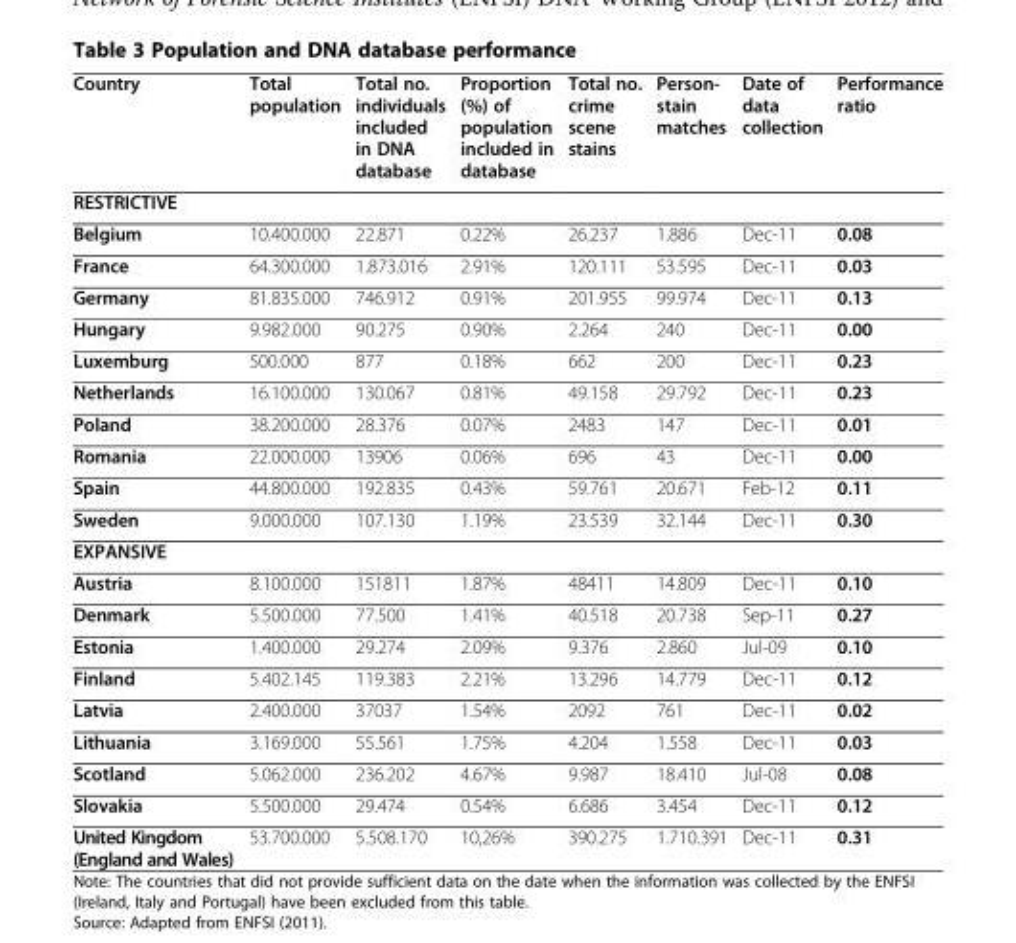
<table><thead><tr><td>Country</td><td>Total population</td><td>Total no. individuals included in DNA database</td><td>Proportion (%) of population included in database</td><td>Total no. crime scene stains</td><td>Person- stain matches</td><td>Date of data collection</td><td>Performance ratio</td></tr></thead><tbody><tr><td colspan="8">RESTRICTIVE</td></tr><tr><td>Belgium</td><td>10.400.000</td><td>22.871</td><td>0.22%</td><td>26.237</td><td>1.886</td><td>Dec-11</td><td>0.08</td></tr><tr><td>France</td><td>64.300.000</td><td>1.873.016</td><td>2.91%</td><td>120.111</td><td>53.595</td><td>Dec-11</td><td>0.03</td></tr><tr><td>Germany</td><td>81.835.000</td><td>746.912</td><td>0.91%</td><td>201.955</td><td>99.974</td><td>Dec-11</td><td>0.13</td></tr><tr><td>Hungary</td><td>9.982.000</td><td>90.275</td><td>0.90%</td><td>2.264</td><td>240</td><td>Dec-11</td><td>0.00</td></tr><tr><td>Luxemburg</td><td>500.000</td><td>877</td><td>0.18%</td><td>662</td><td>200</td><td>Dec-11</td><td>0.23</td></tr><tr><td>Netherlands</td><td>16.100.000</td><td>130.067</td><td>0.81%</td><td>49.158</td><td>29.792</td><td>Dec-11</td><td>0.23</td></tr><tr><td>Poland</td><td>38.200.000</td><td>28.376</td><td>0.07%</td><td>2483</td><td>147</td><td>Dec-11</td><td>0.01</td></tr><tr><td>Romania</td><td>22.000.000</td><td>13906</td><td>0.06%</td><td>696</td><td>43</td><td>Dec-11</td><td>0.00</td></tr><tr><td>Spain</td><td>44.800.000</td><td>192.835</td><td>0.43%</td><td>59.761</td><td>20.671</td><td>Feb-12</td><td>0.11</td></tr><tr><td>Sweden</td><td>9.000.000</td><td>107.130</td><td>1.19%</td><td>23.539</td><td>32.144</td><td>Dec-11</td><td>0.30</td></tr><tr><td colspan="8">EXPANSIVE</td></tr><tr><td>Austria</td><td>8.100.000</td><td>151811</td><td>1.87%</td><td>48411</td><td>14.809</td><td>Dec-11</td><td>0.10</td></tr><tr><td>Denmark</td><td>5.500.000</td><td>77.500</td><td>1.41%</td><td>40.518</td><td>20.738</td><td>Sep-11</td><td>0.27</td></tr><tr><td>Estonia</td><td>1.400.000</td><td>29.274</td><td>2.09%</td><td>9.376</td><td>2.860</td><td>Jul-09</td><td>0.10</td></tr><tr><td>Finland</td><td>5.402.145</td><td>119.383</td><td>2.21%</td><td>13.296</td><td>14.779</td><td>Dec-11</td><td>0.12</td></tr><tr><td>Latvia</td><td>2.400.000</td><td>37037</td><td>1.54%</td><td>2092</td><td>761</td><td>Dec-11</td><td>0.02</td></tr><tr><td>Lithuania</td><td>3.169.000</td><td>55.561</td><td>1.75%</td><td>4.204</td><td>1.558</td><td>Dec-11</td><td>0.03</td></tr><tr><td>Scotland</td><td>5.062.000</td><td>236.202</td><td>4.67%</td><td>9.987</td><td>18.410</td><td>Jul-08</td><td>0.08</td></tr><tr><td>Slovakia</td><td>5.500.000</td><td>29.474</td><td>0.54%</td><td>6.686</td><td>3.454</td><td>Dec-11</td><td>0.12</td></tr><tr><td>United Kingdom (England and Wales)</td><td>53.700.000</td><td>5.508.170</td><td>10,26%</td><td>390.275</td><td>1.710.391</td><td>Dec-11</td><td>0.31</td></tr></tbody></table>